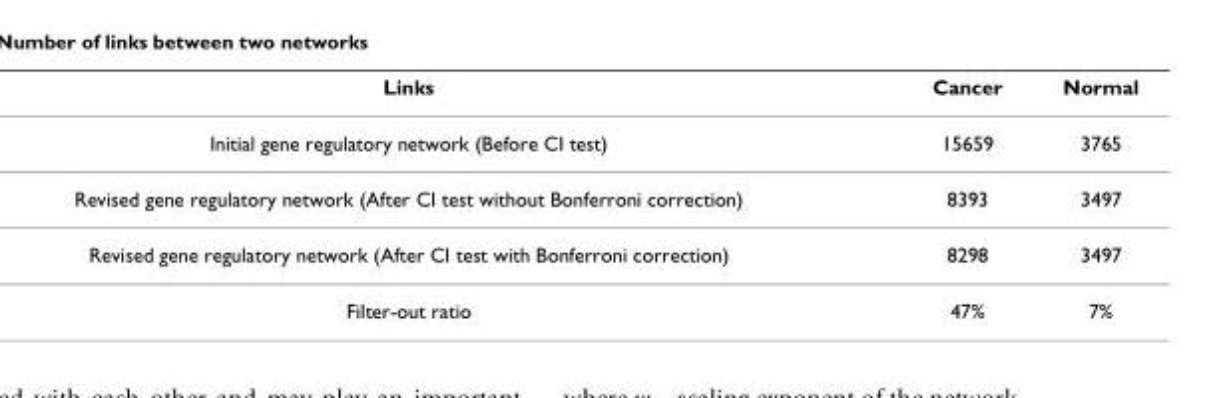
<table><thead><tr><td>Links</td><td>Cancer</td><td>Normal</td></tr></thead><tbody><tr><td>Initial gene regulatory network (Before CI test)</td><td>15659</td><td>3765</td></tr><tr><td>Revised gene regulatory network (After CI test without Bonferroni correction)</td><td>8393</td><td>3497</td></tr><tr><td>Revised gene regulatory network (After CI test with Bonferroni correction)</td><td>8298</td><td>3497</td></tr><tr><td>Filter-out ratio</td><td>47%</td><td>7%</td></tr></tbody></table>